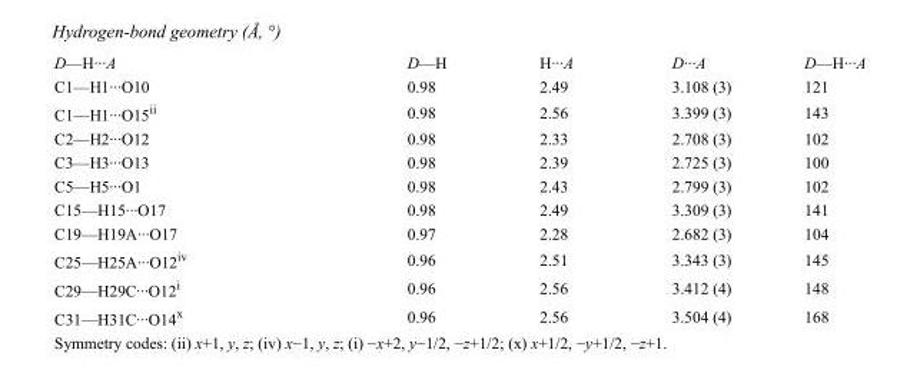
<table><tbody><tr><td>D—H···A</td><td>D—H</td><td>H···A</td><td>D···A</td><td>D—H···A</td></tr><tr><td>C1—H1···O10</td><td>0.98</td><td>2.49</td><td>3.108 (3)</td><td>121</td></tr><tr><td>C1—H1···O15<sup>ii</sup></td><td>0.98</td><td>2.56</td><td>3.399 (3)</td><td>143</td></tr><tr><td>C2—H2···O12</td><td>0.98</td><td>2.33</td><td>2.708 (3)</td><td>102</td></tr><tr><td>C3—H3···O13</td><td>0.98</td><td>2.39</td><td>2.725 (3)</td><td>100</td></tr><tr><td>C5—H5···O1</td><td>0.98</td><td>2.43</td><td>2.799 (3)</td><td>102</td></tr><tr><td>C15—H15···O17</td><td>0.98</td><td>2.49</td><td>3.309 (3)</td><td>141</td></tr><tr><td>C19—H19A···O17</td><td>0.97</td><td>2.28</td><td>2.682 (3)</td><td>104</td></tr><tr><td>C25—H25A···O12<sup>iv</sup></td><td>0.96</td><td>2.51</td><td>3.343 (3)</td><td>145</td></tr><tr><td>C29—H29C···O12<sup>i</sup></td><td>0.96</td><td>2.56</td><td>3.412 (4)</td><td>148</td></tr><tr><td>C31—H31C···O14<sup>x</sup></td><td>0.96</td><td>2.56</td><td>3.504 (4)</td><td>168</td></tr></tbody></table>